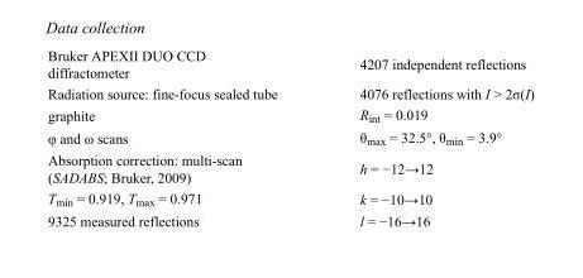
<table><tbody><tr><td>Bruker APEXII DUO CCD diffractometer</td><td>4207 independent reflections</td></tr><tr><td>Radiation source: fine-focus sealed tube</td><td>4076 reflections with I &gt; 2σ(I)</td></tr><tr><td>graphite</td><td>R<sub>int</sub> = 0.019</td></tr><tr><td>φ and ω scans</td><td>θ<sub>max</sub> = 32.5°, θ<sub>min</sub> = 3.9°</td></tr><tr><td>Absorption correction: multi-scan (SADABS; Bruker, 2009)</td><td>h = −12→12</td></tr><tr><td>T<sub>min</sub> = 0.919, T<sub>max</sub> = 0.971</td><td>k = −10→10</td></tr><tr><td>9325 measured reflections</td><td>l = −16→16</td></tr></tbody></table>